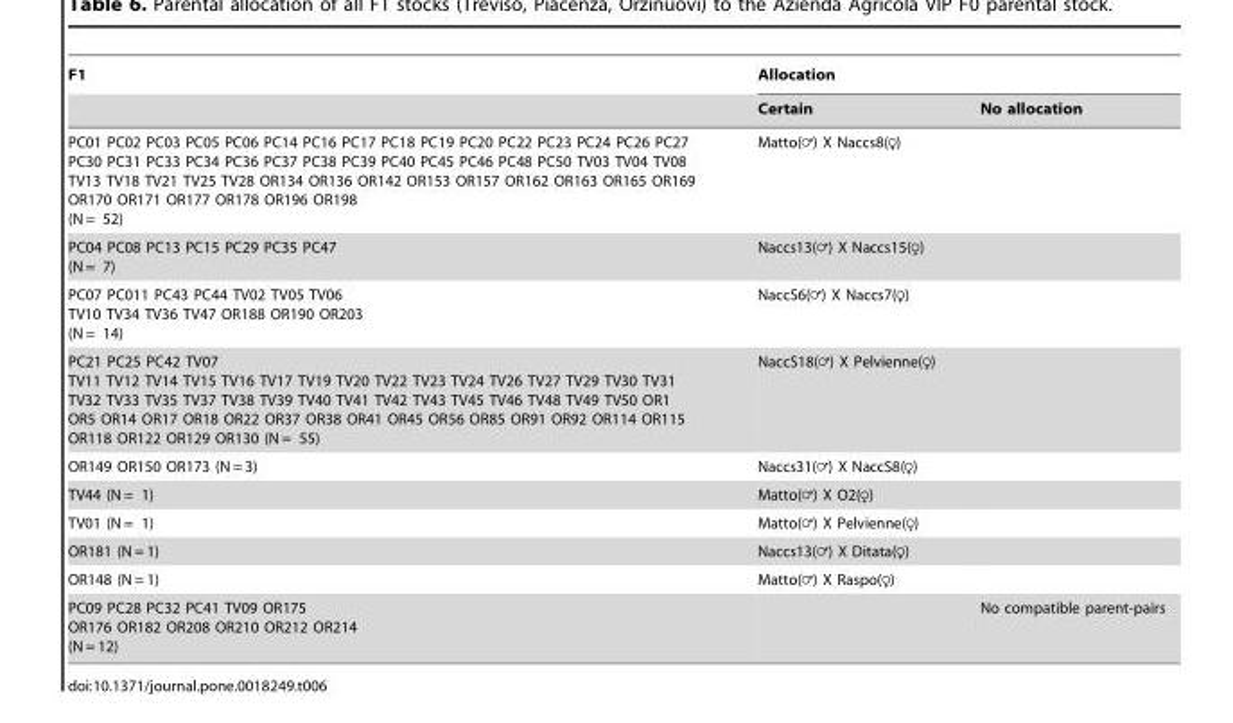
<table><thead><tr><td rowspan="2">F1</td><td colspan="2">Allocation</td></tr><tr><td>Certain</td><td>No allocation</td></tr></thead><tbody><tr><td>PC01 PC02 PC03 PC05 PC06 PC14 PC16 PC17 PC18 PC19 PC20 PC22 PC23 PC24 PC26 PC27 PC30 PC31 PC33 PC34 PC36 PC37 PC38 PC39 PC40 PC45 PC46 PC48 PC50 TV03 TV04 TV08 TV13 TV18 TV21 TV25 TV28 OR134 OR136 OR142 OR153 OR157 OR162 OR163 OR165 OR169 OR170 OR171 OR177 OR178 OR196 OR198 (N = 52)</td><td>Matto(=) X Naccs8(R)</td><td></td></tr><tr><td>PC04 PC08 PC13 PC15 PC29 PC35 PC47 (N = 7)</td><td>Naccs13(=) X Naccs15(R)</td><td></td></tr><tr><td>PC07 PC011 PC43 PC44 TV02 TV05 TV06 TV10 TV34 TV36 TV47 OR188 OR190 OR203 (N = 14)</td><td>NaccS6(=) X Naccs7(R)</td><td></td></tr><tr><td>PC21 PC25 PC42 TV07 TV11 TV12 TV14 TV15 TV16 TV17 TV19 TV20 TV22 TV23 TV24 TV26 TV27 TV29 TV30 TV31 TV32 TV33 TV35 TV37 TV38 TV39 TV40 TV41 TV42 TV43 TV45 TV46 TV48 TV49 TV50 OR1 OR5 OR14 OR17 OR18 OR22 OR37 OR38 OR41 OR45 OR56 OR85 OR91 OR92 OR114 OR115 OR118 OR122 OR129 OR130 (N = 55)</td><td>NaccS18(=) X Pelvienne(R)</td><td></td></tr><tr><td>OR149 OR150 OR173 (N = 3)</td><td>Naccs31(=) X NaccS8(R)</td><td></td></tr><tr><td>TV44 (N = 1)</td><td>Matto(=) X O2(R)</td><td></td></tr><tr><td>TV01 (N = 1)</td><td>Matto(=) X Pelvienne(R)</td><td></td></tr><tr><td>OR181 (N = 1)</td><td>Naccs13(=) X Ditata(R)</td><td></td></tr><tr><td>OR148 (N = 1)</td><td>Matto(=) X Raspo(R)</td><td></td></tr><tr><td>PC09 PC28 PC32 PC41 TV09 OR175 OR176 OR182 OR208 OR210 OR212 OR214 (N = 12)</td><td></td><td>No compatible parent-pairs</td></tr></tbody></table>